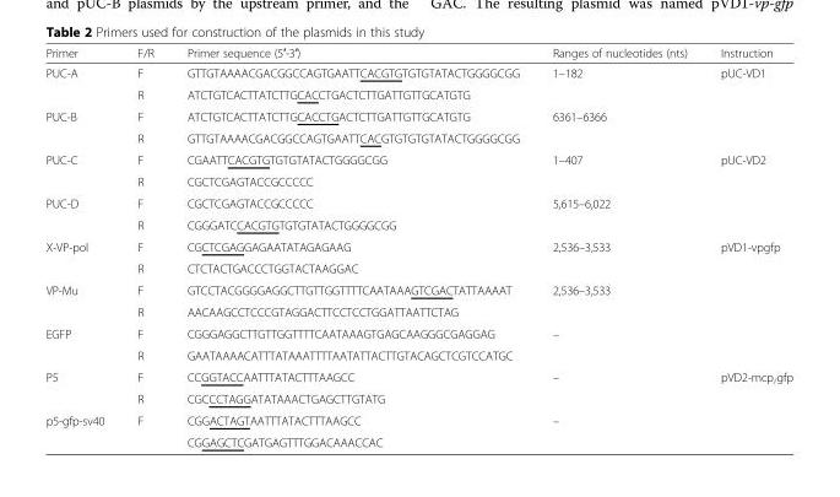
<table><thead><tr><td>Primer</td><td>F/R</td><td>Primer sequence (5′-3′)</td><td>Ranges of nucleotides (nts)</td><td>Instruction</td></tr></thead><tbody><tr><td rowspan="2">PUC-A</td><td>F</td><td>GTTGTAAAACGACGGCCAGTGAATTCACGTGTGTGTATACTGGGGCGG</td><td rowspan="2">1–182</td><td rowspan="4">pUC-VD1</td></tr><tr><td>R</td><td>ATCTGTCACTTATCTTGCACCTGACTCTTGATTGTTGCATGTG</td></tr><tr><td rowspan="2">PUC-B</td><td>F</td><td>ATCTGTCACTTATCTTGCACCTGACTCTTGATTGTTGCATGTG</td><td rowspan="2">6361–6366</td></tr><tr><td>R</td><td>GTTGTAAAACGACGGCCAGTGAATTCACGTGTGTGTATACTGGGGCGG</td></tr><tr><td rowspan="2">PUC-C</td><td>F</td><td>CGAATTCACGTGTGTGTATACTGGGGCGG</td><td rowspan="2">1–407</td><td rowspan="4">pUC-VD2</td></tr><tr><td>R</td><td>CGCTCGAGTACCGCCCCC</td></tr><tr><td rowspan="2">PUC-D</td><td>F</td><td>CGCTCGAGTACCGCCCCC</td><td rowspan="2">5,615–6,022</td></tr><tr><td>R</td><td>CGGGATCCACGTGTGTGTATACTGGGGCGG</td></tr><tr><td rowspan="2">X-VP-pol</td><td>F</td><td>CGCTCGAGGAGAATATAGAGAAG</td><td rowspan="2">2,536–3,533</td><td rowspan="6">pVD1-vpgfp</td></tr><tr><td>R</td><td>CTCTACTGACCCTGGTACTAAGGAC</td></tr><tr><td rowspan="2">VP-Mu</td><td>F</td><td>GTCCTACGGGGAGGCTTGTTGGTTTTCAATAAAGTCGACTATTAAAAT</td><td rowspan="2">2,536–3,533</td></tr><tr><td>R</td><td>AACAAGCCTCCCGTAGGACTTCCTCCTGGATTAATTCTAG</td></tr><tr><td rowspan="2">EGFP</td><td>F</td><td>CGGGAGGCTTGTTGGTTTTCAATAAAGTGAGCAAGGGCGAGGAG</td><td rowspan="2">–</td></tr><tr><td>R</td><td>GAATAAAACATTTATAAATTTTAATATTACTTGTACAGCTCGTCCATGC</td></tr><tr><td rowspan="2">P5</td><td>F</td><td>CCGGTACCAATTTATACTTTAAGCC</td><td rowspan="2">–</td><td rowspan="4">pVD2-mcp<sub>/</sub>gfp</td></tr><tr><td>R</td><td>CGCCCTAGGATATAAACTGAGCTTGTATG</td></tr><tr><td rowspan="2">p5-gfp-sv40</td><td rowspan="2">F</td><td>CGGACTAGTAATTTATACTTTAAGCC</td><td rowspan="2">–</td></tr><tr><td>CGGAGCTCGATGAGTTTGGACAAACCAC</td></tr></tbody></table>